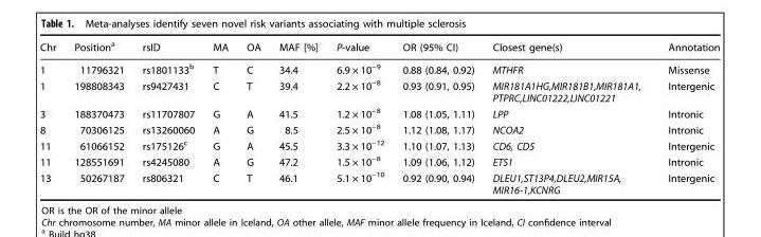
<table><thead><tr><td>Chr</td><td>Position<sup>a</sup></td><td>rsID</td><td>MA</td><td>OA</td><td>MAF [%]</td><td>P-value</td><td>OR (95% CI)</td><td>Closest gene(s)</td><td>Annotation</td></tr></thead><tbody><tr><td>1</td><td>11796321</td><td>rs1801133<sup>b</sup></td><td>T</td><td>C</td><td>34.4</td><td>6.9 × 10<sup>−9</sup></td><td>0.88 (0.84, 0.92)</td><td>MTHFR</td><td>Missense</td></tr><tr><td>1</td><td>198808343</td><td>rs9427431</td><td>C</td><td>T</td><td>39.4</td><td>2.2 × 10<sup>−8</sup></td><td>0.93 (0.91, 0.95)</td><td>MIR181A1HG,MIR181B1,MIR181A1, PTPRC,LINC01222,LINC01221</td><td>Intergenic</td></tr><tr><td>3</td><td>188370473</td><td>rs11707807</td><td>G</td><td>A</td><td>41.5</td><td>1.2 × 10<sup>−8</sup></td><td>1.08 (1.05, 1.11)</td><td>LPP</td><td>Intronic</td></tr><tr><td>8</td><td>70306125</td><td>rs13260060</td><td>A</td><td>G</td><td>8.5</td><td>2.5 × 10<sup>−8</sup></td><td>1.12 (1.08, 1.17)</td><td>NCOA2</td><td>Intronic</td></tr><tr><td>11</td><td>61066152</td><td>rs175126<sup>c</sup></td><td>G</td><td>A</td><td>45.5</td><td>3.3 × 10<sup>−12</sup></td><td>1.10 (1.07, 1.13)</td><td>CD6, CD5</td><td>Intergenic</td></tr><tr><td>11</td><td>128551691</td><td>rs4245080</td><td>A</td><td>G</td><td>47.2</td><td>1.5 × 10<sup>−8</sup></td><td>1.09 (1.06, 1.12)</td><td>ETS1</td><td>Intronic</td></tr><tr><td>13</td><td>50267187</td><td>rs806321</td><td>C</td><td>T</td><td>46.1</td><td>5.1 × 10<sup>−10</sup></td><td>0.92 (0.90, 0.94)</td><td>DLEU1,ST13P4,DLEU2,MIR15A, MIR16-1,KCNRG</td><td>Intergenic</td></tr></tbody></table>